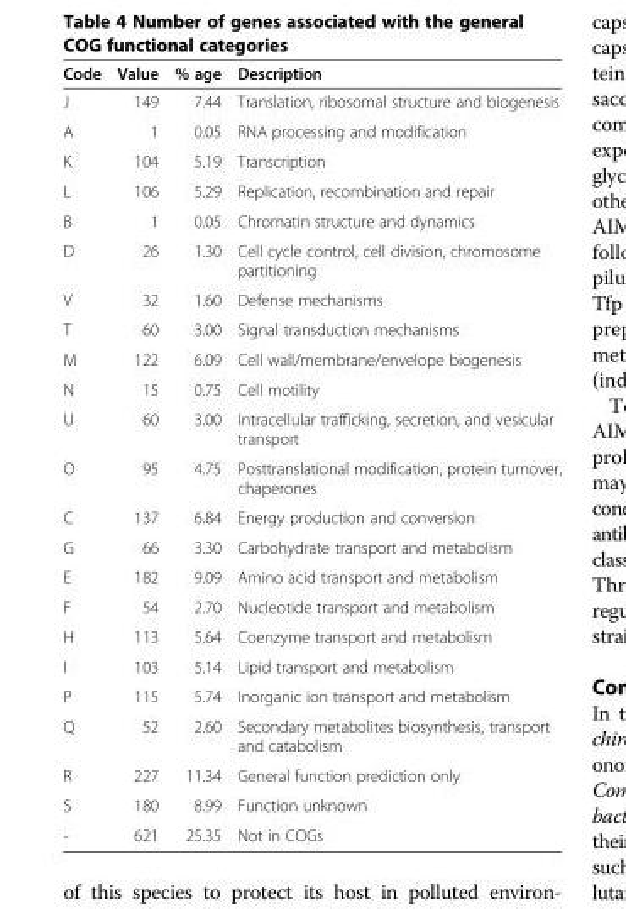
<table><thead><tr><td>Code</td><td>Value</td><td>% age</td><td>Description</td></tr></thead><tbody><tr><td>J</td><td>149</td><td>7.44</td><td>Translation, ribosomal structure and biogenesis</td></tr><tr><td>A</td><td>1</td><td>0.05</td><td>RNA processing and modification</td></tr><tr><td>K</td><td>104</td><td>5.19</td><td>Transcription</td></tr><tr><td>L</td><td>106</td><td>5.29</td><td>Replication, recombination and repair</td></tr><tr><td>B</td><td>1</td><td>0.05</td><td>Chromatin structure and dynamics</td></tr><tr><td>D</td><td>26</td><td>1.30</td><td>Cell cycle control, cell division, chromosome partitioning</td></tr><tr><td>V</td><td>32</td><td>1.60</td><td>Defense mechanisms</td></tr><tr><td>T</td><td>60</td><td>3.00</td><td>Signal transduction mechanisms</td></tr><tr><td>M</td><td>122</td><td>6.09</td><td>Cell wall/membrane/envelope biogenesis</td></tr><tr><td>N</td><td>15</td><td>0.75</td><td>Cell motility</td></tr><tr><td>U</td><td>60</td><td>3.00</td><td>Intracellular trafficking, secretion, and vesicular transport</td></tr><tr><td>O</td><td>95</td><td>4.75</td><td>Posttranslational modification, protein turnover, chaperones</td></tr><tr><td>C</td><td>137</td><td>6.84</td><td>Energy production and conversion</td></tr><tr><td>G</td><td>66</td><td>3.30</td><td>Carbohydrate transport and metabolism</td></tr><tr><td>E</td><td>182</td><td>9.09</td><td>Amino acid transport and metabolism</td></tr><tr><td>F</td><td>54</td><td>2.70</td><td>Nucleotide transport and metabolism</td></tr><tr><td>H</td><td>113</td><td>5.64</td><td>Coenzyme transport and metabolism</td></tr><tr><td>I</td><td>103</td><td>5.14</td><td>Lipid transport and metabolism</td></tr><tr><td>P</td><td>115</td><td>5.74</td><td>Inorganic ion transport and metabolism</td></tr><tr><td>Q</td><td>52</td><td>2.60</td><td>Secondary metabolites biosynthesis, transport and catabolism</td></tr><tr><td>R</td><td>227</td><td>11.34</td><td>General function prediction only</td></tr><tr><td>S</td><td>180</td><td>8.99</td><td>Function unknown</td></tr><tr><td>-</td><td>621</td><td>25.35</td><td>Not in COGs</td></tr></tbody></table>